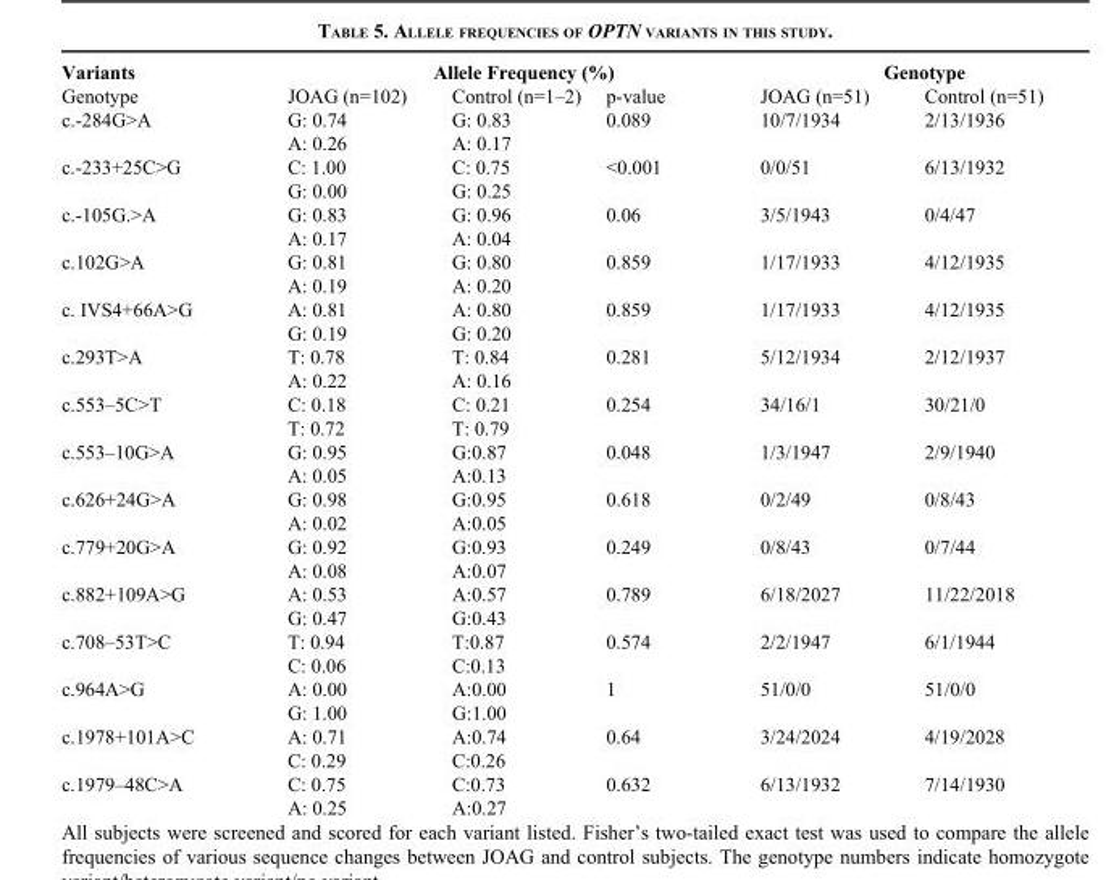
<table><tbody><tr><td>Variants</td><td colspan="3">Allele Frequency (%)</td><td colspan="2">Genotype</td></tr><tr><td>Genotype</td><td>JOAG (n=102)</td><td>Control (n=1–2)</td><td>p-value</td><td>JOAG (n=51)</td><td>Control (n=51)</td></tr><tr><td rowspan="2">c.-284G&gt;A</td><td>G: 0.74</td><td>G: 0.83</td><td>0.089</td><td>10/7/1934</td><td>2/13/1936</td></tr><tr><td>A: 0.26</td><td>A: 0.17</td><td></td><td></td><td></td></tr><tr><td rowspan="2">c.-233+25C&gt;G</td><td>C: 1.00</td><td>C: 0.75</td><td>&lt;0.001</td><td>0/0/51</td><td>6/13/1932</td></tr><tr><td>G: 0.00</td><td>G: 0.25</td><td></td><td></td><td></td></tr><tr><td rowspan="2">c.-105G.&gt;A</td><td>G: 0.83</td><td>G: 0.96</td><td>0.06</td><td>3/5/1943</td><td>0/4/47</td></tr><tr><td>A: 0.17</td><td>A: 0.04</td><td></td><td></td><td></td></tr><tr><td rowspan="2">c.102G&gt;A</td><td>G: 0.81</td><td>G: 0.80</td><td>0.859</td><td>1/17/1933</td><td>4/12/1935</td></tr><tr><td>A: 0.19</td><td>A: 0.20</td><td></td><td></td><td></td></tr><tr><td rowspan="2">c. IVS4+66A&gt;G</td><td>A: 0.81</td><td>A: 0.80</td><td>0.859</td><td>1/17/1933</td><td>4/12/1935</td></tr><tr><td>G: 0.19</td><td>G: 0.20</td><td></td><td></td><td></td></tr><tr><td rowspan="2">c.293T&gt;A</td><td>T: 0.78</td><td>T: 0.84</td><td>0.281</td><td>5/12/1934</td><td>2/12/1937</td></tr><tr><td>A: 0.22</td><td>A: 0.16</td><td></td><td></td><td></td></tr><tr><td rowspan="2">c.553–5C&gt;T</td><td>C: 0.18</td><td>C: 0.21</td><td>0.254</td><td>34/16/1</td><td>30/21/0</td></tr><tr><td>T: 0.72</td><td>T: 0.79</td><td></td><td></td><td></td></tr><tr><td rowspan="2">c.553–10G&gt;A</td><td>G: 0.95</td><td>G:0.87</td><td>0.048</td><td>1/3/1947</td><td>2/9/1940</td></tr><tr><td>A: 0.05</td><td>A:0.13</td><td></td><td></td><td></td></tr><tr><td rowspan="2">c.626+24G&gt;A</td><td>G: 0.98</td><td>G:0.95</td><td>0.618</td><td>0/2/49</td><td>0/8/43</td></tr><tr><td>A: 0.02</td><td>A:0.05</td><td></td><td></td><td></td></tr><tr><td rowspan="2">c.779+20G&gt;A</td><td>G: 0.92</td><td>G:0.93</td><td>0.249</td><td>0/8/43</td><td>0/7/44</td></tr><tr><td>A: 0.08</td><td>A:0.07</td><td></td><td></td><td></td></tr><tr><td rowspan="2">c.882+109A&gt;G</td><td>A: 0.53</td><td>A:0.57</td><td>0.789</td><td>6/18/2027</td><td>11/22/2018</td></tr><tr><td>G: 0.47</td><td>G:0.43</td><td></td><td></td><td></td></tr><tr><td rowspan="2">c.708–53T&gt;C</td><td>T: 0.94</td><td>T:0.87</td><td>0.574</td><td>2/2/1947</td><td>6/1/1944</td></tr><tr><td>C: 0.06</td><td>C:0.13</td><td></td><td></td><td></td></tr><tr><td rowspan="2">c.964A&gt;G</td><td>A: 0.00</td><td>A:0.00</td><td>1</td><td>51/0/0</td><td>51/0/0</td></tr><tr><td>G: 1.00</td><td>G:1.00</td><td></td><td></td><td></td></tr><tr><td rowspan="2">c.1978+101A&gt;C</td><td>A: 0.71</td><td>A:0.74</td><td>0.64</td><td>3/24/2024</td><td>4/19/2028</td></tr><tr><td>C: 0.29</td><td>C:0.26</td><td></td><td></td><td></td></tr><tr><td rowspan="2">c.1979–48C&gt;A</td><td>C: 0.75</td><td>C:0.73</td><td>0.632</td><td>6/13/1932</td><td>7/14/1930</td></tr><tr><td>A: 0.25</td><td>A:0.27</td><td></td><td></td><td></td></tr></tbody></table>